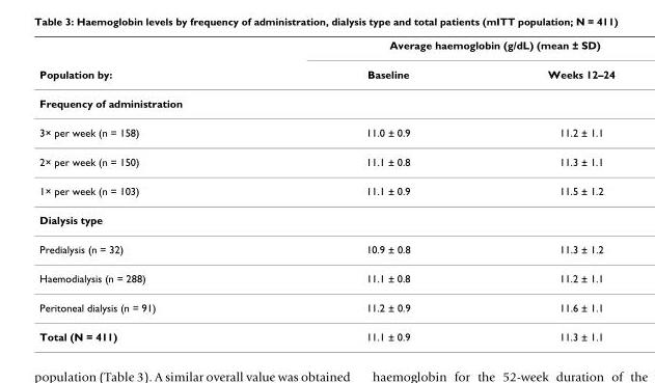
<table><thead><tr><td rowspan="2">Population by:</td><td colspan="2">Average haemoglobin (g/dL) (mean ± SD)</td></tr><tr><td>Baseline</td><td>Weeks 12–24</td></tr></thead><tbody><tr><td colspan="3">Frequency of administration</td></tr><tr><td>3× per week (n = 158)</td><td>11.0 ± 0.9</td><td>11.2 ± 1.1</td></tr><tr><td>2× per week (n = 150)</td><td>11.1 ± 0.8</td><td>11.3 ± 1.1</td></tr><tr><td>1× per week (n = 103)</td><td>11.1 ± 0.9</td><td>11.5 ± 1.2</td></tr><tr><td colspan="3">Dialysis type</td></tr><tr><td>Predialysis (n = 32)</td><td>10.9 ± 0.8</td><td>11.3 ± 1.2</td></tr><tr><td>Haemodialysis (n = 288)</td><td>11.1 ± 0.8</td><td>11.2 ± 1.1</td></tr><tr><td>Peritoneal dialysis (n = 91)</td><td>11.2 ± 0.9</td><td>11.6 ± 1.1</td></tr><tr><td>Total (N = 411)</td><td>11.1 ± 0.9</td><td>11.3 ± 1.1</td></tr></tbody></table>